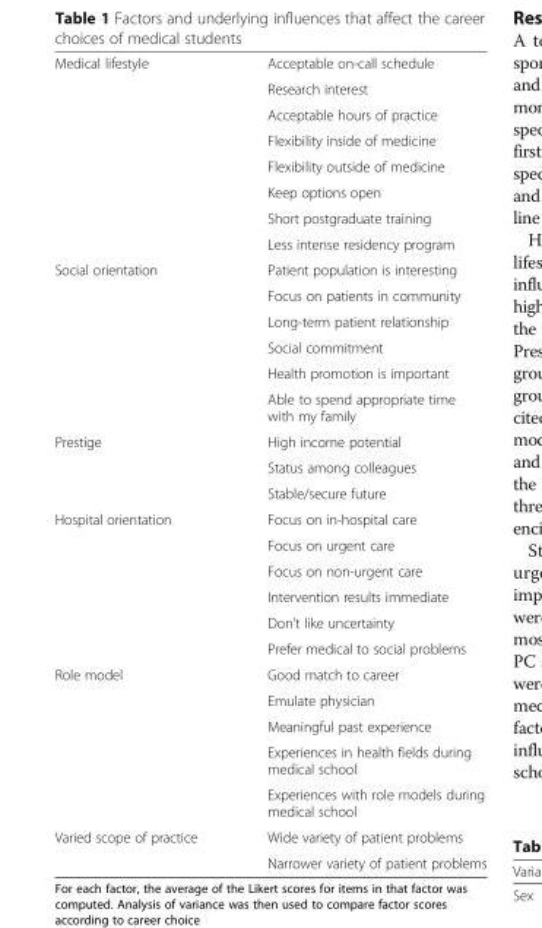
<table><tbody><tr><td rowspan="8">Medical lifestyle</td><td>Acceptable on-call schedule</td></tr><tr><td>Research interest</td></tr><tr><td>Acceptable hours of practice</td></tr><tr><td>Flexibility inside of medicine</td></tr><tr><td>Flexibility outside of medicine</td></tr><tr><td>Keep options open</td></tr><tr><td>Short postgraduate training</td></tr><tr><td>Less intense residency program</td></tr><tr><td rowspan="6">Social orientation</td><td>Patient population is interesting</td></tr><tr><td>Focus on patients in community</td></tr><tr><td>Long-term patient relationship</td></tr><tr><td>Social commitment</td></tr><tr><td>Health promotion is important</td></tr><tr><td>Able to spend appropriate time with my family</td></tr><tr><td rowspan="3">Prestige</td><td>High income potential</td></tr><tr><td>Status among colleagues</td></tr><tr><td>Stable/secure future</td></tr><tr><td rowspan="6">Hospital orientation</td><td>Focus on in-hospital care</td></tr><tr><td>Focus on urgent care</td></tr><tr><td>Focus on non-urgent care</td></tr><tr><td>Intervention results immediate</td></tr><tr><td>Don’t like uncertainty</td></tr><tr><td>Prefer medical to social problems</td></tr><tr><td rowspan="5">Role model</td><td>Good match to career</td></tr><tr><td>Emulate physician</td></tr><tr><td>Meaningful past experience</td></tr><tr><td>Experiences in health fields during medical school</td></tr><tr><td>Experiences with role models during medical school</td></tr><tr><td rowspan="2">Varied scope of practice</td><td>Wide variety of patient problems</td></tr><tr><td>Narrower variety of patient problems</td></tr></tbody></table>